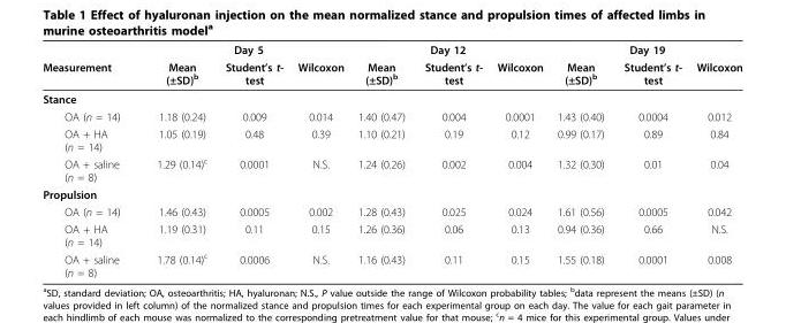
<table><thead><tr><td rowspan="2">Measurement</td><td colspan="3">Day 5</td><td colspan="3">Day 12</td><td colspan="3">Day 19</td></tr><tr><td>Mean (±SD)<sup>b</sup></td><td>Student’s t- test</td><td>Wilcoxon</td><td>Mean (±SD)<sup>b</sup></td><td>Student’s t- test</td><td>Wilcoxon</td><td>Mean (±SD)<sup>b</sup></td><td>Student’s t- test</td><td>Wilcoxon</td></tr></thead><tbody><tr><td colspan="10">Stance</td></tr><tr><td>OA (n = 14)</td><td>1.18 (0.24)</td><td>0.009</td><td>0.014</td><td>1.40 (0.47)</td><td>0.004</td><td>0.0001</td><td>1.43 (0.40)</td><td>0.0004</td><td>0.012</td></tr><tr><td>OA + HA (n = 14)</td><td>1.05 (0.19)</td><td>0.48</td><td>0.39</td><td>1.10 (0.21)</td><td>0.19</td><td>0.12</td><td>0.99 (0.17)</td><td>0.89</td><td>0.84</td></tr><tr><td>OA + saline (n = 8)</td><td>1.29 (0.14)<sup>c</sup></td><td>0.0001</td><td>N.S.</td><td>1.24 (0.26)</td><td>0.002</td><td>0.004</td><td>1.32 (0.30)</td><td>0.01</td><td>0.04</td></tr><tr><td colspan="10">Propulsion</td></tr><tr><td>OA (n = 14)</td><td>1.46 (0.43)</td><td>0.0005</td><td>0.002</td><td>1.28 (0.43)</td><td>0.025</td><td>0.024</td><td>1.61 (0.56)</td><td>0.0005</td><td>0.042</td></tr><tr><td>OA + HA (n = 14)</td><td>1.19 (0.31)</td><td>0.11</td><td>0.15</td><td>1.26 (0.36)</td><td>0.06</td><td>0.13</td><td>0.94 (0.36)</td><td>0.66</td><td>N.S.</td></tr><tr><td>OA + saline (n = 8)</td><td>1.78 (0.14)<sup>c</sup></td><td>0.0006</td><td>N.S.</td><td>1.16 (0.43)</td><td>0.11</td><td>0.15</td><td>1.55 (0.18)</td><td>0.0001</td><td>0.008</td></tr></tbody></table>